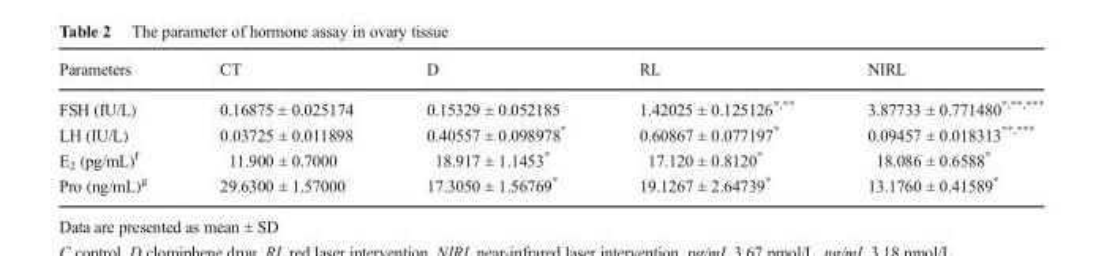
<table><thead><tr><td>Parameters</td><td>CT</td><td>D</td><td>RL</td><td>NIRL</td></tr></thead><tbody><tr><td>FSH (IU/L)</td><td>0.16875 ± 0.025174</td><td>0.15329 ± 0.052185</td><td>1.42025 ± 0.125126<sup>*,**</sup></td><td>3.87733 ± 0.771480<sup>*,**,***</sup></td></tr><tr><td>LH (IU/L)</td><td>0.03725 ± 0.011898</td><td>0.40557 ± 0.098978*</td><td>0.60867 ± 0.077197*</td><td>0.09457 ± 0.018313<sup>**,***</sup></td></tr><tr><td>E<sub>2</sub> (pg/mL)<sup>f</sup></td><td>11.900 ± 0.7000</td><td>18.917 ± 1.1453*</td><td>17.120 ± 0.8120*</td><td>18.086 ± 0.6588*</td></tr><tr><td>Pro (ng/mL)<sup>g</sup></td><td>29.6300 ± 1.57000</td><td>17.3050 ± 1.56769*</td><td>19.1267 ± 2.64739*</td><td>13.1760 ± 0.41589*</td></tr></tbody></table>